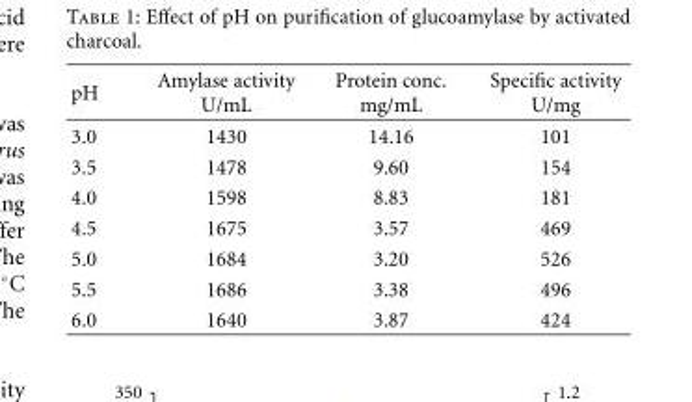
<table><thead><tr><td>pH</td><td>Amylase activity U/mL</td><td>Protein conc. mg/mL</td><td>Specific activity U/mg</td></tr></thead><tbody><tr><td>3.0</td><td>1430</td><td>14.16</td><td>101</td></tr><tr><td>3.5</td><td>1478</td><td>9.60</td><td>154</td></tr><tr><td>4.0</td><td>1598</td><td>8.83</td><td>181</td></tr><tr><td>4.5</td><td>1675</td><td>3.57</td><td>469</td></tr><tr><td>5.0</td><td>1684</td><td>3.20</td><td>526</td></tr><tr><td>5.5</td><td>1686</td><td>3.38</td><td>496</td></tr><tr><td>6.0</td><td>1640</td><td>3.87</td><td>424</td></tr></tbody></table>